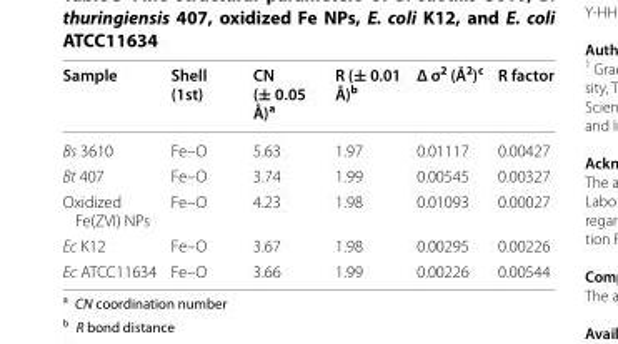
<table><thead><tr><td>Sample</td><td>Shell (1st)</td><td>CN (± 0.05 Å)<sup>a</sup></td><td>R (± 0.01 Å)<sup>b</sup></td><td>Δ σ<sup>2</sup> (Å<sup>2</sup>)<sup>c</sup></td><td>R factor</td></tr></thead><tbody><tr><td>Bs 3610</td><td>Fe–O</td><td>5.63</td><td>1.97</td><td>0.01117</td><td>0.00427</td></tr><tr><td>Bt 407</td><td>Fe–O</td><td>3.74</td><td>1.99</td><td>0.00545</td><td>0.00327</td></tr><tr><td>Oxidized Fe(ZVI) NPs</td><td>Fe–O</td><td>4.23</td><td>1.98</td><td>0.01093</td><td>0.00027</td></tr><tr><td>Ec K12</td><td>Fe–O</td><td>3.67</td><td>1.98</td><td>0.00295</td><td>0.00226</td></tr><tr><td>Ec ATCC11634</td><td>Fe–O</td><td>3.66</td><td>1.99</td><td>0.00226</td><td>0.00544</td></tr></tbody></table>